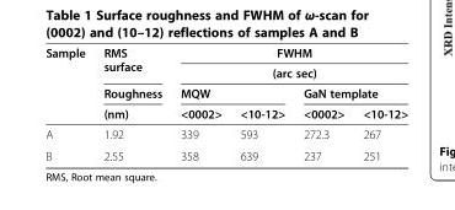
<table><thead><tr><td rowspan="4">Sample</td><td rowspan="4">RMS surface Roughness (nm)</td><td rowspan="2" colspan="4">FWHM (arc sec)</td></tr><tr></tr><tr><td colspan="2">MQW</td><td colspan="2">GaN template</td></tr><tr><td>&lt;0002&gt;</td><td>&lt;10-12&gt;</td><td>&lt;0002&gt;</td><td>&lt;10-12&gt;</td></tr></thead><tbody><tr><td>A</td><td>1.92</td><td>339</td><td>593</td><td>272.3</td><td>267</td></tr><tr><td>B</td><td>2.55</td><td>358</td><td>639</td><td>237</td><td>251</td></tr></tbody></table>